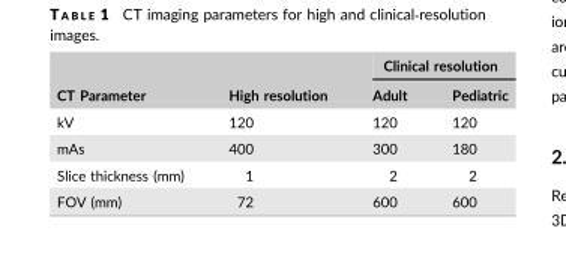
<table><thead><tr><td rowspan="2">CT Parameter</td><td rowspan="2">High resolution</td><td colspan="2">Clinical resolution</td></tr><tr><td>Adult</td><td>Pediatric</td></tr></thead><tbody><tr><td>kV</td><td>120</td><td>120</td><td>120</td></tr><tr><td>mAs</td><td>400</td><td>300</td><td>180</td></tr><tr><td>Slice thickness (mm)</td><td>1</td><td>2</td><td>2</td></tr><tr><td>FOV (mm)</td><td>72</td><td>600</td><td>600</td></tr></tbody></table>